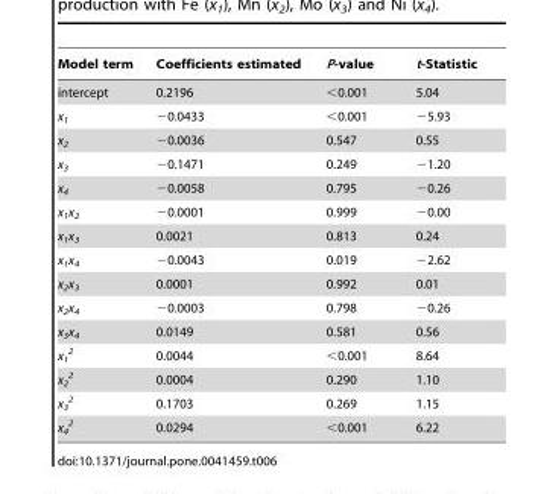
<table><thead><tr><td>Model term</td><td>Coefficients estimated</td><td>P-value</td><td>t-Statistic</td></tr></thead><tbody><tr><td>intercept</td><td>0.2196</td><td>&lt;0.001</td><td>5.04</td></tr><tr><td>x<sub>1</sub></td><td>−0.0433</td><td>&lt;0.001</td><td>−5.93</td></tr><tr><td>x<sub>2</sub></td><td>−0.0036</td><td>0.547</td><td>0.55</td></tr><tr><td>x<sub>3</sub></td><td>−0.1471</td><td>0.249</td><td>−1.20</td></tr><tr><td>x<sub>4</sub></td><td>−0.0058</td><td>0.795</td><td>−0.26</td></tr><tr><td>x<sub>1</sub>x<sub>2</sub></td><td>−0.0001</td><td>0.999</td><td>−0.00</td></tr><tr><td>x<sub>1</sub>x<sub>3</sub></td><td>0.0021</td><td>0.813</td><td>0.24</td></tr><tr><td>x<sub>1</sub>x<sub>4</sub></td><td>−0.0043</td><td>0.019</td><td>−2.62</td></tr><tr><td>x<sub>2</sub>x<sub>3</sub></td><td>0.0001</td><td>0.992</td><td>0.01</td></tr><tr><td>x<sub>2</sub>x<sub>4</sub></td><td>−0.0003</td><td>0.798</td><td>−0.26</td></tr><tr><td>x<sub>3</sub>x<sub>4</sub></td><td>0.0149</td><td>0.581</td><td>0.56</td></tr><tr><td>x<sub>1</sub> <sup>2</sup></td><td>0.0044</td><td>&lt;0.001</td><td>8.64</td></tr><tr><td>x<sub>2</sub> <sup>2</sup></td><td>0.0004</td><td>0.290</td><td>1.10</td></tr><tr><td>x<sub>3</sub> <sup>2</sup></td><td>0.1703</td><td>0.269</td><td>1.15</td></tr><tr><td>x<sub>4</sub> <sup>2</sup></td><td>0.0294</td><td>&lt;0.001</td><td>6.22</td></tr></tbody></table>